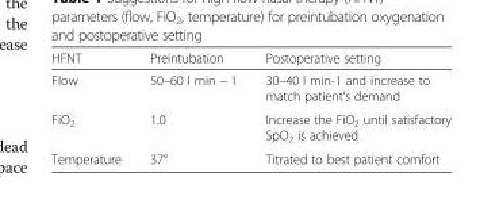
<table><thead><tr><td>HFNT</td><td>Preintubation</td><td>Postoperative setting</td></tr></thead><tbody><tr><td>Flow</td><td>50–60 l min − 1</td><td>30–40 l min-1 and increase to match patient’s demand</td></tr><tr><td>FiO<sub>2</sub></td><td>1.0</td><td>Increase the FiO<sub>2</sub> until satisfactory SpO<sub>2</sub> is achieved</td></tr><tr><td>Temperature</td><td>37°</td><td>Titrated to best patient comfort</td></tr></tbody></table>